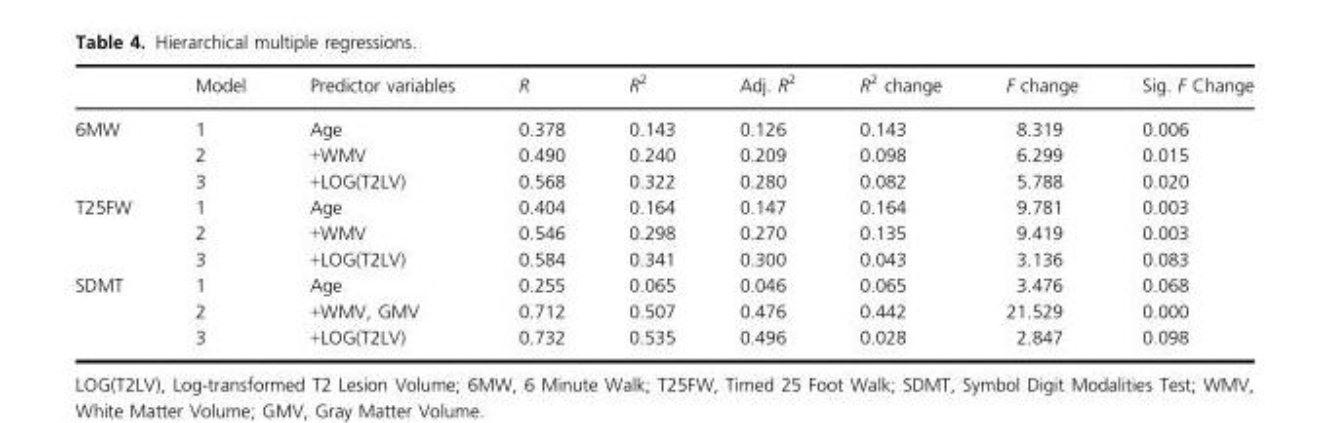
<table><thead><tr><td></td><td>Model</td><td>Predictor variables</td><td>R</td><td>R<sup>2</sup></td><td>Adj. R<sup>2</sup></td><td>R<sup>2</sup> change</td><td>F change</td><td>Sig. F Change</td></tr></thead><tbody><tr><td rowspan="3">6MW</td><td>1</td><td>Age</td><td>0.378</td><td>0.143</td><td>0.126</td><td>0.143</td><td>8.319</td><td>0.006</td></tr><tr><td>2</td><td>+WMV</td><td>0.490</td><td>0.240</td><td>0.209</td><td>0.098</td><td>6.299</td><td>0.015</td></tr><tr><td>3</td><td>+LOG(T2LV)</td><td>0.568</td><td>0.322</td><td>0.280</td><td>0.082</td><td>5.788</td><td>0.020</td></tr><tr><td rowspan="3">T25FW</td><td>1</td><td>Age</td><td>0.404</td><td>0.164</td><td>0.147</td><td>0.164</td><td>9.781</td><td>0.003</td></tr><tr><td>2</td><td>+WMV</td><td>0.546</td><td>0.298</td><td>0.270</td><td>0.135</td><td>9.419</td><td>0.003</td></tr><tr><td>3</td><td>+LOG(T2LV)</td><td>0.584</td><td>0.341</td><td>0.300</td><td>0.043</td><td>3.136</td><td>0.083</td></tr><tr><td rowspan="3">SDMT</td><td>1</td><td>Age</td><td>0.255</td><td>0.065</td><td>0.046</td><td>0.065</td><td>3.476</td><td>0.068</td></tr><tr><td>2</td><td>+WMV, GMV</td><td>0.712</td><td>0.507</td><td>0.476</td><td>0.442</td><td>21.529</td><td>0.000</td></tr><tr><td>3</td><td>+LOG(T2LV)</td><td>0.732</td><td>0.535</td><td>0.496</td><td>0.028</td><td>2.847</td><td>0.098</td></tr></tbody></table>